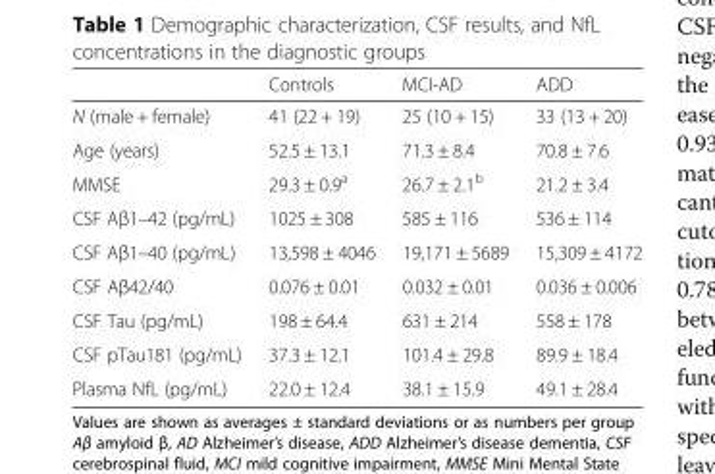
<table><thead><tr><td></td><td>Controls</td><td>MCI-AD</td><td>ADD</td></tr></thead><tbody><tr><td>N (male + female)</td><td>41 (22 + 19)</td><td>25 (10 + 15)</td><td>33 (13 + 20)</td></tr><tr><td>Age (years)</td><td>52.5 ± 13.1</td><td>71.3 ± 8.4</td><td>70.8 ± 7.6</td></tr><tr><td>MMSE</td><td>29.3 ± 0.9<sup>a</sup></td><td>26.7 ± 2.1<sup>b</sup></td><td>21.2 ± 3.4</td></tr><tr><td>CSF Aβ1–42 (pg/mL)</td><td>1025 ± 308</td><td>585 ± 116</td><td>536 ± 114</td></tr><tr><td>CSF Aβ1–40 (pg/mL)</td><td>13,598 ± 4046</td><td>19,171 ± 5689</td><td>15,309 ± 4172</td></tr><tr><td>CSF Aβ42/40</td><td>0.076 ± 0.01</td><td>0.032 ± 0.01</td><td>0.036 ± 0.006</td></tr><tr><td>CSF Tau (pg/mL)</td><td>198 ± 64.4</td><td>631 ± 214</td><td>558 ± 178</td></tr><tr><td>CSF pTau181 (pg/mL)</td><td>37.3 ± 12.1</td><td>101.4 ± 29.8</td><td>89.9 ± 18.4</td></tr><tr><td>Plasma NfL (pg/mL)</td><td>22.0 ± 12.4</td><td>38.1 ± 15.9</td><td>49.1 ± 28.4</td></tr></tbody></table>